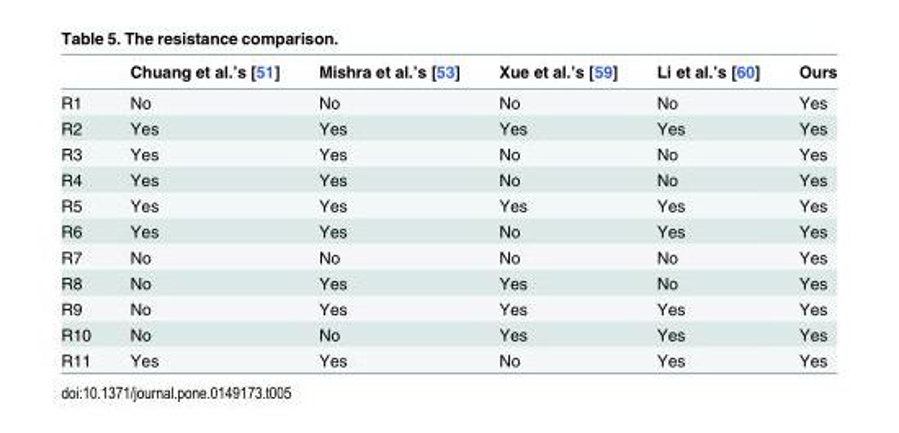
<table><thead><tr><td></td><td>Chuang et al.’s [51]</td><td>Mishra et al.’s [53]</td><td>Xue et al.’s [59]</td><td>Li et al.’s [60]</td><td>Ours</td></tr></thead><tbody><tr><td>R1</td><td>No</td><td>No</td><td>No</td><td>No</td><td>Yes</td></tr><tr><td>R2</td><td>Yes</td><td>Yes</td><td>Yes</td><td>Yes</td><td>Yes</td></tr><tr><td>R3</td><td>Yes</td><td>Yes</td><td>No</td><td>No</td><td>Yes</td></tr><tr><td>R4</td><td>Yes</td><td>Yes</td><td>No</td><td>No</td><td>Yes</td></tr><tr><td>R5</td><td>Yes</td><td>Yes</td><td>Yes</td><td>Yes</td><td>Yes</td></tr><tr><td>R6</td><td>Yes</td><td>Yes</td><td>No</td><td>Yes</td><td>Yes</td></tr><tr><td>R7</td><td>No</td><td>No</td><td>No</td><td>No</td><td>Yes</td></tr><tr><td>R8</td><td>No</td><td>Yes</td><td>Yes</td><td>No</td><td>Yes</td></tr><tr><td>R9</td><td>No</td><td>Yes</td><td>Yes</td><td>Yes</td><td>Yes</td></tr><tr><td>R10</td><td>No</td><td>No</td><td>Yes</td><td>Yes</td><td>Yes</td></tr><tr><td>R11</td><td>Yes</td><td>Yes</td><td>No</td><td>Yes</td><td>Yes</td></tr></tbody></table>